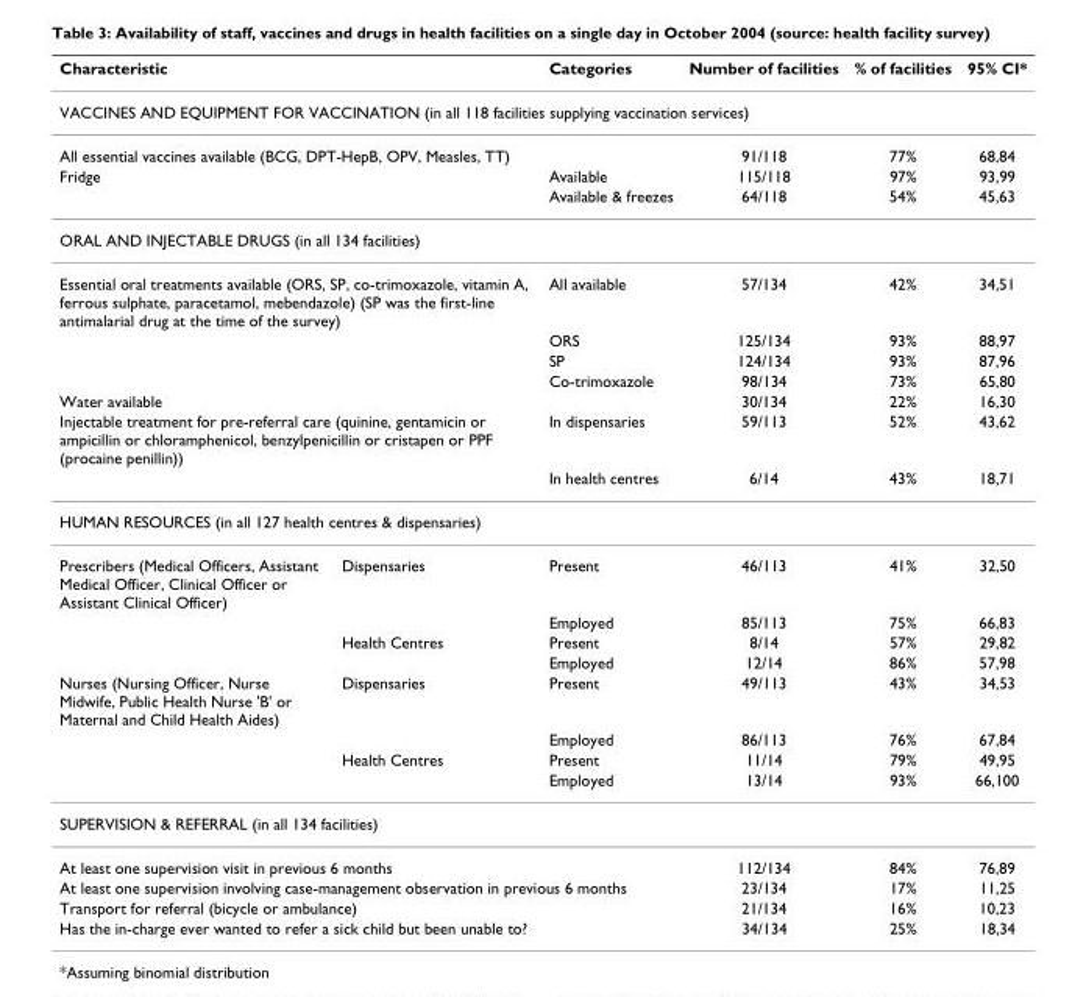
<table><thead><tr><td colspan="2">Characteristic</td><td>Categories</td><td>Number of facilities</td><td>% of facilities</td><td>95% CI*</td></tr><tr><td colspan="6">VACCINES AND EQUIPMENT FOR VACCINATION (in all 118 facilities supplying vaccination services)</td></tr><tr><td colspan="3">All essential vaccines available (BCG, DPT-HepB, OPV, Measles, TT)</td><td rowspan="2">91/118 115/118</td><td rowspan="2">77% 97%</td><td rowspan="2">68,84 93,99</td></tr><tr><td>Fridge</td><td></td><td>Available</td></tr></thead><tbody><tr><td></td><td></td><td>Available &amp; freezes</td><td>64/118</td><td>54%</td><td>45,63</td></tr><tr><td colspan="6">ORAL AND INJECTABLE DRUGS (in all 134 facilities)</td></tr><tr><td colspan="2">Essential oral treatments available (ORS, SP, co-trimoxazole, vitamin A, ferrous sulphate, paracetamol, mebendazole) (SP was the first-line antimalarial drug at the time of the survey)</td><td>All available</td><td>57/134</td><td>42%</td><td>34,51</td></tr><tr><td></td><td></td><td>ORS</td><td>125/134</td><td>93%</td><td>88,97</td></tr><tr><td></td><td></td><td>SP</td><td>124/134</td><td>93%</td><td>87,96</td></tr><tr><td></td><td></td><td>Co-trimoxazole</td><td>98/134</td><td>73%</td><td>65,80</td></tr><tr><td colspan="3">Water available</td><td>30/134</td><td>22%</td><td>16,30</td></tr><tr><td colspan="2">Injectable treatment for pre-referral care (quinine, gentamicin or ampicillin or chloramphenicol, benzylpenicillin or cristapen or PPF (procaine penillin))</td><td>In dispensaries</td><td>59/113</td><td>52%</td><td>43,62</td></tr><tr><td></td><td></td><td>In health centres</td><td>6/14</td><td>43%</td><td>18,71</td></tr><tr><td colspan="6">HUMAN RESOURCES (in all 127 health centres &amp; dispensaries)</td></tr><tr><td rowspan="4">Prescribers (Medical Officers, Assistant Medical Officer, Clinical Officer or Assistant Clinical Officer)</td><td>Dispensaries</td><td>Present</td><td>46/113</td><td>41%</td><td>32,50</td></tr><tr><td></td><td>Employed</td><td>85/113</td><td>75%</td><td>66,83</td></tr><tr><td>Health Centres</td><td>Present</td><td>8/14</td><td>57%</td><td>29,82</td></tr><tr><td></td><td>Employed</td><td>12/14</td><td>86%</td><td>57,98</td></tr><tr><td rowspan="4">Nurses (Nursing Officer, Nurse Midwife, Public Health Nurse &#x27;B&#x27; or Maternal and Child Health Aides)</td><td>Dispensaries</td><td>Present</td><td>49/113</td><td>43%</td><td>34,53</td></tr><tr><td></td><td>Employed</td><td>86/113</td><td>76%</td><td>67,84</td></tr><tr><td>Health Centres</td><td>Present</td><td>11/14</td><td>79%</td><td>49,95</td></tr><tr><td></td><td>Employed</td><td>13/14</td><td>93%</td><td>66,100</td></tr><tr><td colspan="6">SUPERVISION &amp; REFERRAL (in all 134 facilities)</td></tr><tr><td colspan="3">At least one supervision visit in previous 6 months</td><td>112/134</td><td>84%</td><td>76,89</td></tr><tr><td colspan="3">At least one supervision involving case-management observation in previous 6 months</td><td>23/134</td><td>17%</td><td>11,25</td></tr><tr><td colspan="3">Transport for referral (bicycle or ambulance)</td><td>21/134</td><td>16%</td><td>10,23</td></tr><tr><td colspan="3">Has the in-charge ever wanted to refer a sick child but been unable to?</td><td>34/134</td><td>25%</td><td>18,34</td></tr></tbody></table>